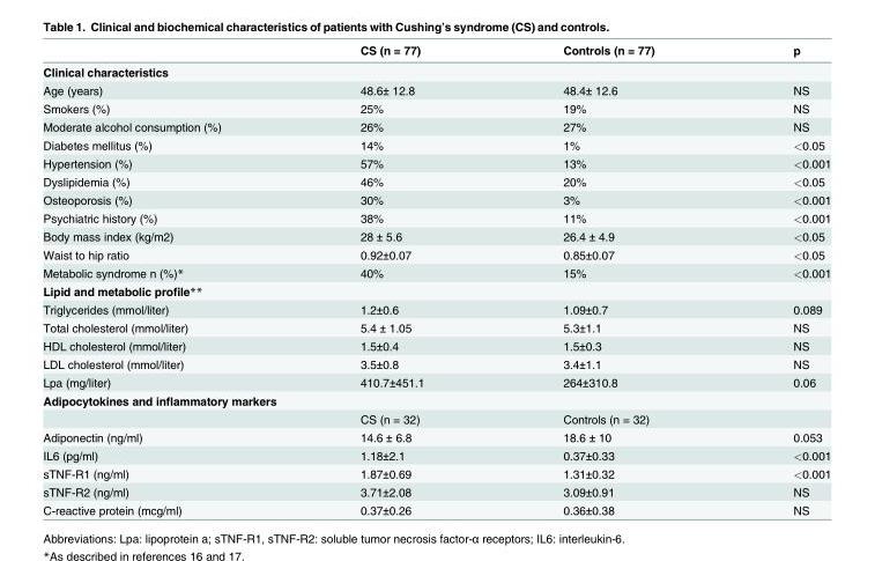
<table><thead><tr><td></td><td>CS (n = 77)</td><td>Controls (n = 77)</td><td>p</td></tr></thead><tbody><tr><td colspan="4">Clinical characteristics</td></tr><tr><td>Age (years)</td><td>48.6± 12.8</td><td>48.4± 12.6</td><td>NS</td></tr><tr><td>Smokers (%)</td><td>25%</td><td>19%</td><td>NS</td></tr><tr><td>Moderate alcohol consumption (%)</td><td>26%</td><td>27%</td><td>NS</td></tr><tr><td>Diabetes mellitus (%)</td><td>14%</td><td>1%</td><td>&lt;0.05</td></tr><tr><td>Hypertension (%)</td><td>57%</td><td>13%</td><td>&lt;0.001</td></tr><tr><td>Dyslipidemia (%)</td><td>46%</td><td>20%</td><td>&lt;0.05</td></tr><tr><td>Osteoporosis (%)</td><td>30%</td><td>3%</td><td>&lt;0.001</td></tr><tr><td>Psychiatric history (%)</td><td>38%</td><td>11%</td><td>&lt;0.001</td></tr><tr><td>Body mass index (kg/m2)</td><td>28 ± 5.6</td><td>26.4 ± 4.9</td><td>&lt;0.05</td></tr><tr><td>Waist to hip ratio</td><td>0.92±0.07</td><td>0.85±0.07</td><td>&lt;0.05</td></tr><tr><td>Metabolic syndrome n (%)*</td><td>40%</td><td>15%</td><td>&lt;0.001</td></tr><tr><td colspan="4">Lipid and metabolic profile**</td></tr><tr><td>Triglycerides (mmol/liter)</td><td>1.2±0.6</td><td>1.09±0.7</td><td>0.089</td></tr><tr><td>Total cholesterol (mmol/liter)</td><td>5.4 ± 1.05</td><td>5.3±1.1</td><td>NS</td></tr><tr><td>HDL cholesterol (mmol/liter)</td><td>1.5±0.4</td><td>1.5±0.3</td><td>NS</td></tr><tr><td>LDL cholesterol (mmol/liter)</td><td>3.5±0.8</td><td>3.4±1.1</td><td>NS</td></tr><tr><td>Lpa (mg/liter)</td><td>410.7±451.1</td><td>264±310.8</td><td>0.06</td></tr><tr><td colspan="4">Adipocytokines and inflammatory markers</td></tr><tr><td></td><td>CS (n = 32)</td><td>Controls (n = 32)</td><td></td></tr><tr><td>Adiponectin (ng/ml)</td><td>14.6 ± 6.8</td><td>18.6 ± 10</td><td>0.053</td></tr><tr><td>IL6 (pg/ml)</td><td>1.18±2.1</td><td>0.37±0.33</td><td>&lt;0.001</td></tr><tr><td>sTNF-R1 (ng/ml)</td><td>1.87±0.69</td><td>1.31±0.32</td><td>&lt;0.001</td></tr><tr><td>sTNF-R2 (ng/ml)</td><td>3.71±2.08</td><td>3.09±0.91</td><td>NS</td></tr><tr><td>C-reactive protein (mcg/ml)</td><td>0.37±0.26</td><td>0.36±0.38</td><td>NS</td></tr></tbody></table>